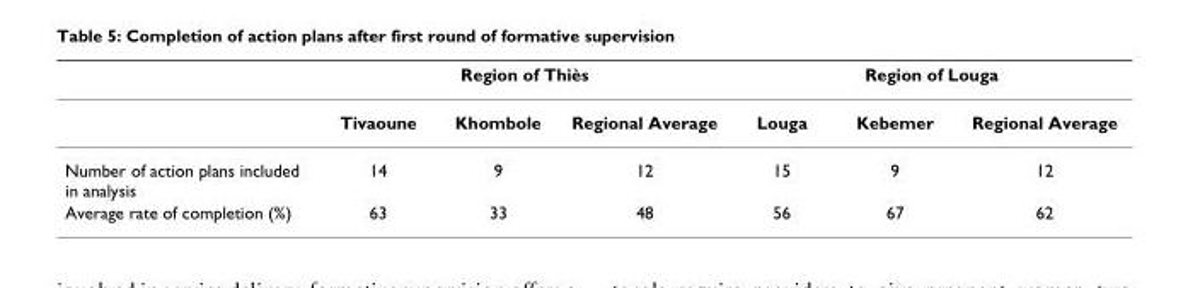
<table><thead><tr><td rowspan="2"></td><td colspan="3">Region of Thiès</td><td colspan="3">Region of Louga</td></tr><tr><td>Tivaoune</td><td>Khombole</td><td>Regional Average</td><td>Louga</td><td>Kebemer</td><td>Regional Average</td></tr></thead><tbody><tr><td>Number of action plans included in analysis</td><td>14</td><td>9</td><td>12</td><td>15</td><td>9</td><td>12</td></tr><tr><td>Average rate of completion (%)</td><td>63</td><td>33</td><td>48</td><td>56</td><td>67</td><td>62</td></tr></tbody></table>